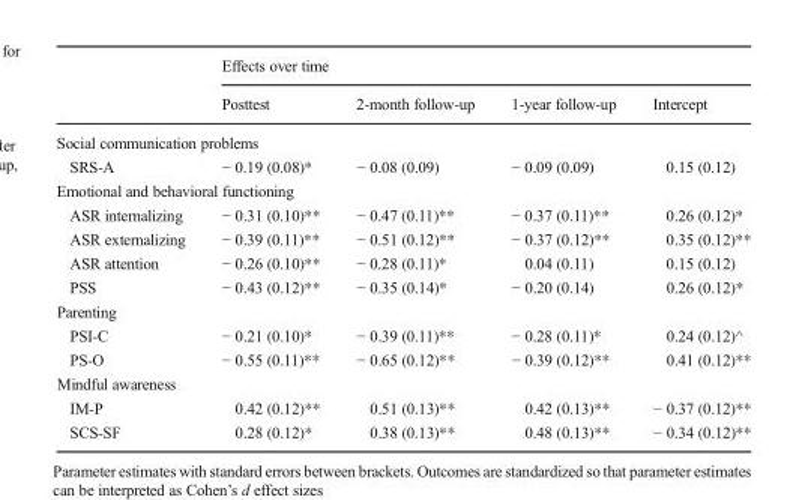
<table><thead><tr><td rowspan="2"></td><td colspan="4">Effects over time</td></tr><tr><td>Posttest</td><td>2-month follow-up</td><td>1-year follow-up</td><td>Intercept</td></tr></thead><tbody><tr><td colspan="5">Social communication problems</td></tr><tr><td>SRS-A</td><td>− 0.19 (0.08)*</td><td>− 0.08 (0.09)</td><td>− 0.09 (0.09)</td><td>0.15 (0.12)</td></tr><tr><td colspan="5">Emotional and behavioral functioning</td></tr><tr><td>ASR internalizing</td><td>− 0.31 (0.10)**</td><td>− 0.47 (0.11)**</td><td>− 0.37 (0.11)**</td><td>0.26 (0.12)*</td></tr><tr><td>ASR externalizing</td><td>− 0.39 (0.11)**</td><td>− 0.51 (0.12)**</td><td>− 0.37 (0.12)**</td><td>0.35 (0.12)**</td></tr><tr><td>ASR attention</td><td>− 0.26 (0.10)**</td><td>− 0.28 (0.11)*</td><td>0.04 (0.11)</td><td>0.15 (0.12)</td></tr><tr><td>PSS</td><td>− 0.43 (0.12)**</td><td>− 0.35 (0.14)*</td><td>− 0.20 (0.14)</td><td>0.26 (0.12)*</td></tr><tr><td colspan="5">Parenting</td></tr><tr><td>PSI-C</td><td>− 0.21 (0.10)*</td><td>− 0.39 (0.11)**</td><td>− 0.28 (0.11)*</td><td>0.24 (0.12)^</td></tr><tr><td>PS-O</td><td>− 0.55 (0.11)**</td><td>− 0.65 (0.12)**</td><td>− 0.39 (0.12)**</td><td>0.41 (0.12)**</td></tr><tr><td colspan="5">Mindful awareness</td></tr><tr><td>IM-P</td><td>0.42 (0.12)**</td><td>0.51 (0.13)**</td><td>0.42 (0.13)**</td><td>− 0.37 (0.12)**</td></tr><tr><td>SCS-SF</td><td>0.28 (0.12)*</td><td>0.38 (0.13)**</td><td>0.48 (0.13)**</td><td>− 0.34 (0.12)**</td></tr></tbody></table>